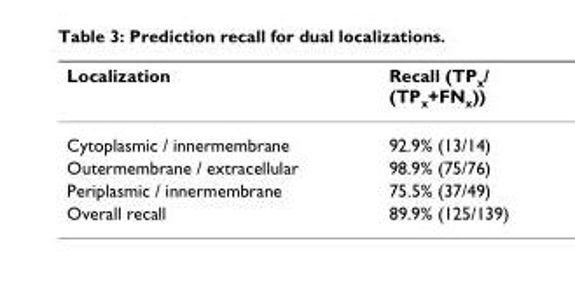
<table><thead><tr><td>Localization</td><td>Recall (TP<sub>x</sub>/ (TP<sub>x</sub>+FN<sub>x</sub>))</td></tr></thead><tbody><tr><td>Cytoplasmic / innermembrane</td><td>92.9% (13/14)</td></tr><tr><td>Outermembrane / extracellular</td><td>98.9% (75/76)</td></tr><tr><td>Periplasmic / innermembrane</td><td>75.5% (37/49)</td></tr><tr><td>Overall recall</td><td>89.9% (125/139)</td></tr></tbody></table>